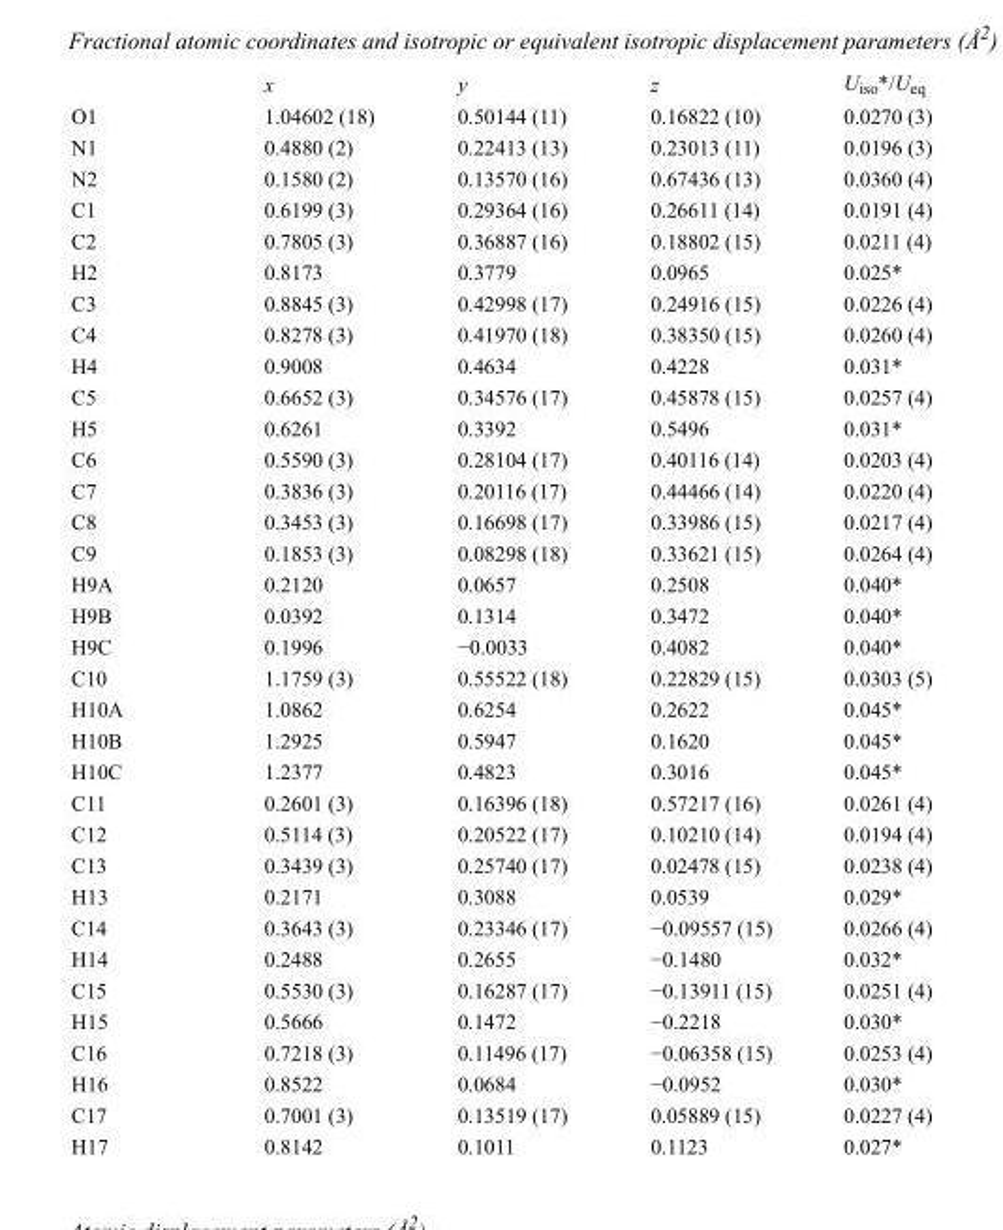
<table><thead><tr><td></td><td>x</td><td>y</td><td>z</td><td>U<sub>iso</sub>*/U<sub>eq</sub></td></tr></thead><tbody><tr><td>O1</td><td>1.04602 (18)</td><td>0.50144 (11)</td><td>0.16822 (10)</td><td>0.0270 (3)</td></tr><tr><td>N1</td><td>0.4880 (2)</td><td>0.22413 (13)</td><td>0.23013 (11)</td><td>0.0196 (3)</td></tr><tr><td>N2</td><td>0.1580 (2)</td><td>0.13570 (16)</td><td>0.67436 (13)</td><td>0.0360 (4)</td></tr><tr><td>C1</td><td>0.6199 (3)</td><td>0.29364 (16)</td><td>0.26611 (14)</td><td>0.0191 (4)</td></tr><tr><td>C2</td><td>0.7805 (3)</td><td>0.36887 (16)</td><td>0.18802 (15)</td><td>0.0211 (4)</td></tr><tr><td>H2</td><td>0.8173</td><td>0.3779</td><td>0.0965</td><td>0.025*</td></tr><tr><td>C3</td><td>0.8845 (3)</td><td>0.42998 (17)</td><td>0.24916 (15)</td><td>0.0226 (4)</td></tr><tr><td>C4</td><td>0.8278 (3)</td><td>0.41970 (18)</td><td>0.38350 (15)</td><td>0.0260 (4)</td></tr><tr><td>H4</td><td>0.9008</td><td>0.4634</td><td>0.4228</td><td>0.031*</td></tr><tr><td>C5</td><td>0.6652 (3)</td><td>0.34576 (17)</td><td>0.45878 (15)</td><td>0.0257 (4)</td></tr><tr><td>H5</td><td>0.6261</td><td>0.3392</td><td>0.5496</td><td>0.031*</td></tr><tr><td>C6</td><td>0.5590 (3)</td><td>0.28104 (17)</td><td>0.40116 (14)</td><td>0.0203 (4)</td></tr><tr><td>C7</td><td>0.3836 (3)</td><td>0.20116 (17)</td><td>0.44466 (14)</td><td>0.0220 (4)</td></tr><tr><td>C8</td><td>0.3453 (3)</td><td>0.16698 (17)</td><td>0.33986 (15)</td><td>0.0217 (4)</td></tr><tr><td>C9</td><td>0.1853 (3)</td><td>0.08298 (18)</td><td>0.33621 (15)</td><td>0.0264 (4)</td></tr><tr><td>H9A</td><td>0.2120</td><td>0.0657</td><td>0.2508</td><td>0.040*</td></tr><tr><td>H9B</td><td>0.0392</td><td>0.1314</td><td>0.3472</td><td>0.040*</td></tr><tr><td>H9C</td><td>0.1996</td><td>−0.0033</td><td>0.4082</td><td>0.040*</td></tr><tr><td>C10</td><td>1.1759 (3)</td><td>0.55522 (18)</td><td>0.22829 (15)</td><td>0.0303 (5)</td></tr><tr><td>H10A</td><td>1.0862</td><td>0.6254</td><td>0.2622</td><td>0.045*</td></tr><tr><td>H10B</td><td>1.2925</td><td>0.5947</td><td>0.1620</td><td>0.045*</td></tr><tr><td>H10C</td><td>1.2377</td><td>0.4823</td><td>0.3016</td><td>0.045*</td></tr><tr><td>C11</td><td>0.2601 (3)</td><td>0.16396 (18)</td><td>0.57217 (16)</td><td>0.0261 (4)</td></tr><tr><td>C12</td><td>0.5114 (3)</td><td>0.20522 (17)</td><td>0.10210 (14)</td><td>0.0194 (4)</td></tr><tr><td>C13</td><td>0.3439 (3)</td><td>0.25740 (17)</td><td>0.02478 (15)</td><td>0.0238 (4)</td></tr><tr><td>H13</td><td>0.2171</td><td>0.3088</td><td>0.0539</td><td>0.029*</td></tr><tr><td>C14</td><td>0.3643 (3)</td><td>0.23346 (17)</td><td>−0.09557 (15)</td><td>0.0266 (4)</td></tr><tr><td>H14</td><td>0.2488</td><td>0.2655</td><td>−0.1480</td><td>0.032*</td></tr><tr><td>C15</td><td>0.5530 (3)</td><td>0.16287 (17)</td><td>−0.13911 (15)</td><td>0.0251 (4)</td></tr><tr><td>H15</td><td>0.5666</td><td>0.1472</td><td>−0.2218</td><td>0.030*</td></tr><tr><td>C16</td><td>0.7218 (3)</td><td>0.11496 (17)</td><td>−0.06358 (15)</td><td>0.0253 (4)</td></tr><tr><td>H16</td><td>0.8522</td><td>0.0684</td><td>−0.0952</td><td>0.030*</td></tr><tr><td>C17</td><td>0.7001 (3)</td><td>0.13519 (17)</td><td>0.05889 (15)</td><td>0.0227 (4)</td></tr><tr><td>H17</td><td>0.8142</td><td>0.1011</td><td>0.1123</td><td>0.027*</td></tr></tbody></table>